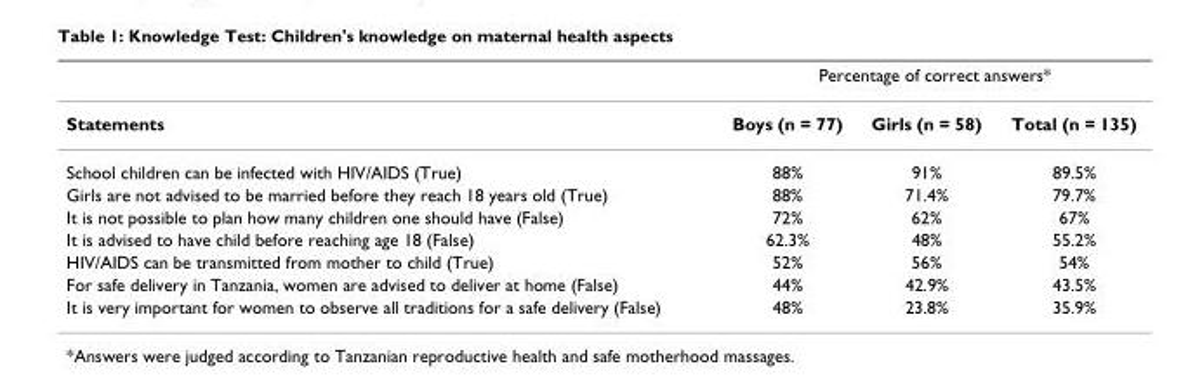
<table><thead><tr><td rowspan="2">Statements</td><td colspan="3">Percentage of correct answers*</td></tr><tr><td>Boys (n = 77)</td><td>Girls (n = 58)</td><td>Total (n = 135)</td></tr></thead><tbody><tr><td>School children can be infected with HIV/AIDS (True)</td><td>88%</td><td>91%</td><td>89.5%</td></tr><tr><td>Girls are not advised to be married before they reach 18 years old (True)</td><td>88%</td><td>71.4%</td><td>79.7%</td></tr><tr><td>It is not possible to plan how many children one should have (False)</td><td>72%</td><td>62%</td><td>67%</td></tr><tr><td>It is advised to have child before reaching age 18 (False)</td><td>62.3%</td><td>48%</td><td>55.2%</td></tr><tr><td>HIV/AIDS can be transmitted from mother to child (True)</td><td>52%</td><td>56%</td><td>54%</td></tr><tr><td>For safe delivery in Tanzania, women are advised to deliver at home (False)</td><td>44%</td><td>42.9%</td><td>43.5%</td></tr><tr><td>It is very important for women to observe all traditions for a safe delivery (False)</td><td>48%</td><td>23.8%</td><td>35.9%</td></tr></tbody></table>